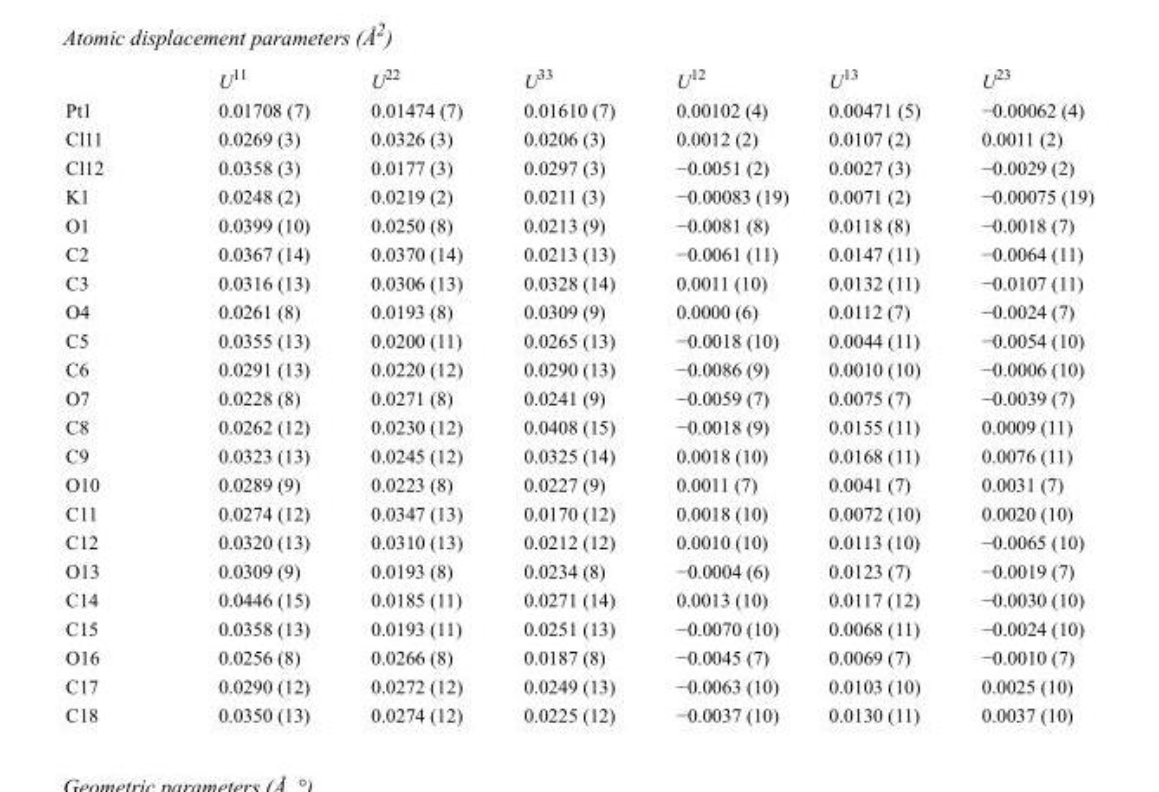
<table><thead><tr><td></td><td>U<sup>11</sup></td><td>U<sup>22</sup></td><td>U<sup>33</sup></td><td>U<sup>12</sup></td><td>U<sup>13</sup></td><td>U<sup>23</sup></td></tr></thead><tbody><tr><td>Pt1</td><td>0.01708 (7)</td><td>0.01474 (7)</td><td>0.01610 (7)</td><td>0.00102 (4)</td><td>0.00471 (5)</td><td>−0.00062 (4)</td></tr><tr><td>Cl11</td><td>0.0269 (3)</td><td>0.0326 (3)</td><td>0.0206 (3)</td><td>0.0012 (2)</td><td>0.0107 (2)</td><td>0.0011 (2)</td></tr><tr><td>Cl12</td><td>0.0358 (3)</td><td>0.0177 (3)</td><td>0.0297 (3)</td><td>−0.0051 (2)</td><td>0.0027 (3)</td><td>−0.0029 (2)</td></tr><tr><td>K1</td><td>0.0248 (2)</td><td>0.0219 (2)</td><td>0.0211 (3)</td><td>−0.00083 (19)</td><td>0.0071 (2)</td><td>−0.00075 (19)</td></tr><tr><td>O1</td><td>0.0399 (10)</td><td>0.0250 (8)</td><td>0.0213 (9)</td><td>−0.0081 (8)</td><td>0.0118 (8)</td><td>−0.0018 (7)</td></tr><tr><td>C2</td><td>0.0367 (14)</td><td>0.0370 (14)</td><td>0.0213 (13)</td><td>−0.0061 (11)</td><td>0.0147 (11)</td><td>−0.0064 (11)</td></tr><tr><td>C3</td><td>0.0316 (13)</td><td>0.0306 (13)</td><td>0.0328 (14)</td><td>0.0011 (10)</td><td>0.0132 (11)</td><td>−0.0107 (11)</td></tr><tr><td>O4</td><td>0.0261 (8)</td><td>0.0193 (8)</td><td>0.0309 (9)</td><td>0.0000 (6)</td><td>0.0112 (7)</td><td>−0.0024 (7)</td></tr><tr><td>C5</td><td>0.0355 (13)</td><td>0.0200 (11)</td><td>0.0265 (13)</td><td>−0.0018 (10)</td><td>0.0044 (11)</td><td>−0.0054 (10)</td></tr><tr><td>C6</td><td>0.0291 (13)</td><td>0.0220 (12)</td><td>0.0290 (13)</td><td>−0.0086 (9)</td><td>0.0010 (10)</td><td>−0.0006 (10)</td></tr><tr><td>O7</td><td>0.0228 (8)</td><td>0.0271 (8)</td><td>0.0241 (9)</td><td>−0.0059 (7)</td><td>0.0075 (7)</td><td>−0.0039 (7)</td></tr><tr><td>C8</td><td>0.0262 (12)</td><td>0.0230 (12)</td><td>0.0408 (15)</td><td>−0.0018 (9)</td><td>0.0155 (11)</td><td>0.0009 (11)</td></tr><tr><td>C9</td><td>0.0323 (13)</td><td>0.0245 (12)</td><td>0.0325 (14)</td><td>0.0018 (10)</td><td>0.0168 (11)</td><td>0.0076 (11)</td></tr><tr><td>O10</td><td>0.0289 (9)</td><td>0.0223 (8)</td><td>0.0227 (9)</td><td>0.0011 (7)</td><td>0.0041 (7)</td><td>0.0031 (7)</td></tr><tr><td>C11</td><td>0.0274 (12)</td><td>0.0347 (13)</td><td>0.0170 (12)</td><td>0.0018 (10)</td><td>0.0072 (10)</td><td>0.0020 (10)</td></tr><tr><td>C12</td><td>0.0320 (13)</td><td>0.0310 (13)</td><td>0.0212 (12)</td><td>0.0010 (10)</td><td>0.0113 (10)</td><td>−0.0065 (10)</td></tr><tr><td>O13</td><td>0.0309 (9)</td><td>0.0193 (8)</td><td>0.0234 (8)</td><td>−0.0004 (6)</td><td>0.0123 (7)</td><td>−0.0019 (7)</td></tr><tr><td>C14</td><td>0.0446 (15)</td><td>0.0185 (11)</td><td>0.0271 (14)</td><td>0.0013 (10)</td><td>0.0117 (12)</td><td>−0.0030 (10)</td></tr><tr><td>C15</td><td>0.0358 (13)</td><td>0.0193 (11)</td><td>0.0251 (13)</td><td>−0.0070 (10)</td><td>0.0068 (11)</td><td>−0.0024 (10)</td></tr><tr><td>O16</td><td>0.0256 (8)</td><td>0.0266 (8)</td><td>0.0187 (8)</td><td>−0.0045 (7)</td><td>0.0069 (7)</td><td>−0.0010 (7)</td></tr><tr><td>C17</td><td>0.0290 (12)</td><td>0.0272 (12)</td><td>0.0249 (13)</td><td>−0.0063 (10)</td><td>0.0103 (10)</td><td>0.0025 (10)</td></tr><tr><td>C18</td><td>0.0350 (13)</td><td>0.0274 (12)</td><td>0.0225 (12)</td><td>−0.0037 (10)</td><td>0.0130 (11)</td><td>0.0037 (10)</td></tr></tbody></table>